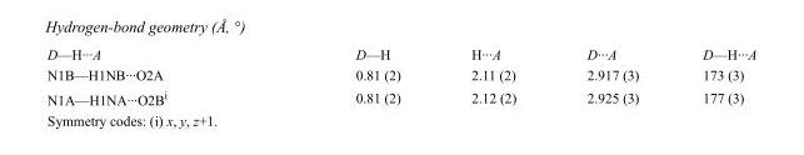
<table><tbody><tr><td>D—H···A</td><td>D—H</td><td>H···A</td><td>D···A</td><td>D—H···A</td></tr><tr><td>N1B—H1NB···O2A</td><td>0.81 (2)</td><td>2.11 (2)</td><td>2.917 (3)</td><td>173 (3)</td></tr><tr><td>N1A—H1NA···O2B<sup>i</sup></td><td>0.81 (2)</td><td>2.12 (2)</td><td>2.925 (3)</td><td>177 (3)</td></tr></tbody></table>